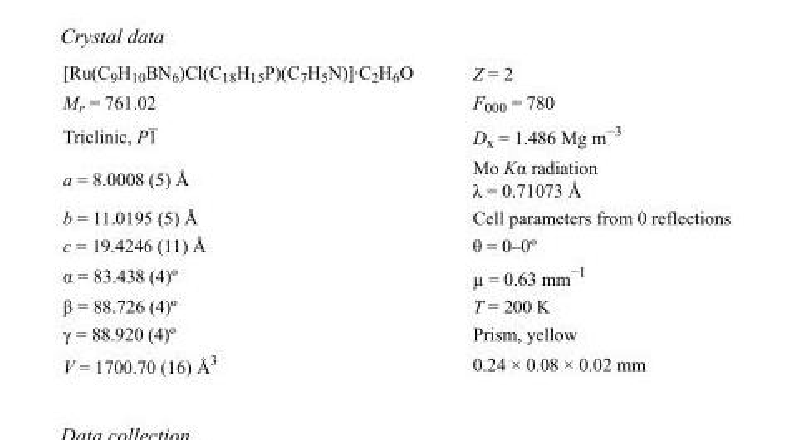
<table><tbody><tr><td>[Ru(C<sub>9</sub>H<sub>10</sub>BN<sub>6</sub>)Cl(C<sub>18</sub>H<sub>15</sub>P)(C<sub>7</sub>H<sub>5</sub>N)]·C<sub>2</sub>H<sub>6</sub>O</td><td>Z = 2</td></tr><tr><td>M<sub>r</sub> = 761.02</td><td>F000 = 780</td></tr><tr><td>Triclinic, P1</td><td>D<sub>x</sub> = 1.486 Mg m<sup>−3</sup></td></tr><tr><td>a = 8.0008 (5) Å</td><td>Mo Kα radiation λ = 0.71073 Å</td></tr><tr><td>b = 11.0195 (5) Å</td><td>Cell parameters from 0 reflections</td></tr><tr><td>c = 19.4246 (11) Å</td><td>θ = 0–0º</td></tr><tr><td>α = 83.438 (4)º</td><td>µ = 0.63 mm<sup>−1</sup></td></tr><tr><td>β = 88.726 (4)º</td><td>T = 200 K</td></tr><tr><td>γ = 88.920 (4)º</td><td>Prism, yellow</td></tr><tr><td>V = 1700.70 (16) Å<sup>3</sup></td><td>0.24 × 0.08 × 0.02 mm</td></tr></tbody></table>